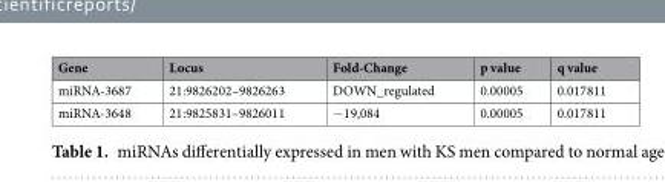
<table><thead><tr><td>Gene</td><td>Locus</td><td>Fold-Change</td><td>p value</td><td>q value</td></tr></thead><tbody><tr><td>miRNA-3687</td><td>21:9826202–9826263</td><td>DOWN_regulated</td><td>0.00005</td><td>0.017811</td></tr><tr><td>miRNA-3648</td><td>21:9825831–9826011</td><td>−19,084</td><td>0.00005</td><td>0.017811</td></tr></tbody></table>